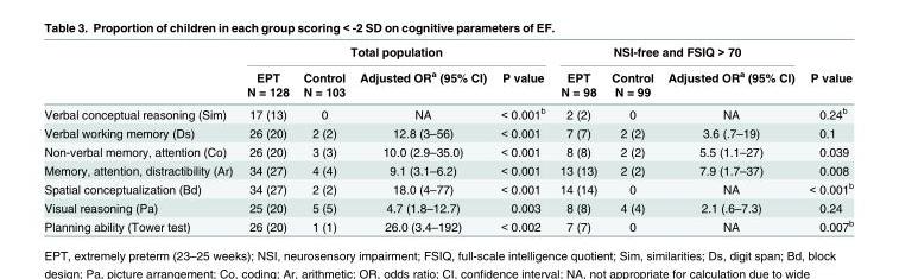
<table><thead><tr><td rowspan="3"></td><td colspan="4">Total population</td><td colspan="3">NSI-free and FSIQ &gt; 70</td><td rowspan="3">P value</td></tr><tr><td rowspan="2">EPT N = 128</td><td rowspan="2">Control N = 103</td><td rowspan="2">Adjusted OR<sup>a</sup> (95% CI)</td><td rowspan="2">P value</td><td rowspan="2">EPT N = 98</td><td rowspan="2">Control N = 99</td><td rowspan="2">Adjusted OR<sup>a</sup> (95% CI)</td></tr><tr></tr></thead><tbody><tr><td>Verbal conceptual reasoning (Sim)</td><td>17 (13)</td><td>0</td><td>NA</td><td>&lt; 0.001<sup>b</sup></td><td>2 (2)</td><td>0</td><td>NA</td><td>0.24<sup>b</sup></td></tr><tr><td>Verbal working memory (Ds)</td><td>26 (20)</td><td>2 (2)</td><td>12.8 (3–56)</td><td>&lt; 0.001</td><td>7 (7)</td><td>2 (2)</td><td>3.6 (.7–19)</td><td>0.1</td></tr><tr><td>Non-verbal memory, attention (Co)</td><td>26 (20)</td><td>3 (3)</td><td>10.0 (2.9–35.0)</td><td>&lt; 0.001</td><td>8 (8)</td><td>2 (2)</td><td>5.5 (1.1–27)</td><td>0.039</td></tr><tr><td>Memory, attention, distractibility (Ar)</td><td>34 (27)</td><td>4 (4)</td><td>9.1 (3.1–6.2)</td><td>&lt; 0.001</td><td>13 (13)</td><td>2 (2)</td><td>7.9 (1.7–37)</td><td>0.008</td></tr><tr><td>Spatial conceptualization (Bd)</td><td>34 (27)</td><td>2 (2)</td><td>18.0 (4–77)</td><td>&lt; 0.001</td><td>14 (14)</td><td>0</td><td>NA</td><td>&lt; 0.001<sup>b</sup></td></tr><tr><td>Visual reasoning (Pa)</td><td>25 (20)</td><td>5 (5)</td><td>4.7 (1.8–12.7)</td><td>0.003</td><td>8 (8)</td><td>4 (4)</td><td>2.1 (.6–7.3)</td><td>0.24</td></tr><tr><td>Planning ability (Tower test)</td><td>26 (20)</td><td>1 (1)</td><td>26.0 (3.4–192)</td><td>&lt; 0.002</td><td>7 (7)</td><td>0</td><td>NA</td><td>0.007<sup>b</sup></td></tr></tbody></table>